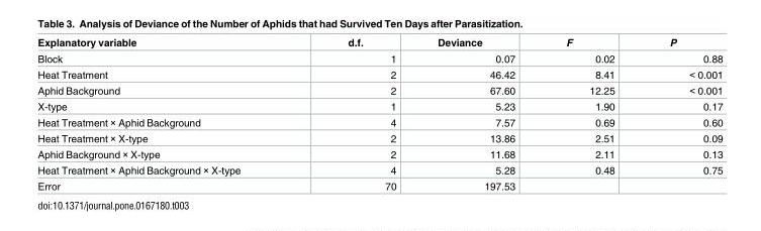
<table><thead><tr><td>Explanatory variable</td><td>d.f.</td><td>Deviance</td><td>F</td><td>P</td></tr></thead><tbody><tr><td>Block</td><td>1</td><td>0.07</td><td>0.02</td><td>0.88</td></tr><tr><td>Heat Treatment</td><td>2</td><td>46.42</td><td>8.41</td><td>&lt; 0.001</td></tr><tr><td>Aphid Background</td><td>2</td><td>67.60</td><td>12.25</td><td>&lt; 0.001</td></tr><tr><td>X-type</td><td>1</td><td>5.23</td><td>1.90</td><td>0.17</td></tr><tr><td>Heat Treatment × Aphid Background</td><td>4</td><td>7.57</td><td>0.69</td><td>0.60</td></tr><tr><td>Heat Treatment × X-type</td><td>2</td><td>13.86</td><td>2.51</td><td>0.09</td></tr><tr><td>Aphid Background × X-type</td><td>2</td><td>11.68</td><td>2.11</td><td>0.13</td></tr><tr><td>Heat Treatment × Aphid Background × X-type</td><td>4</td><td>5.28</td><td>0.48</td><td>0.75</td></tr><tr><td>Error</td><td>70</td><td>197.53</td><td></td><td></td></tr></tbody></table>